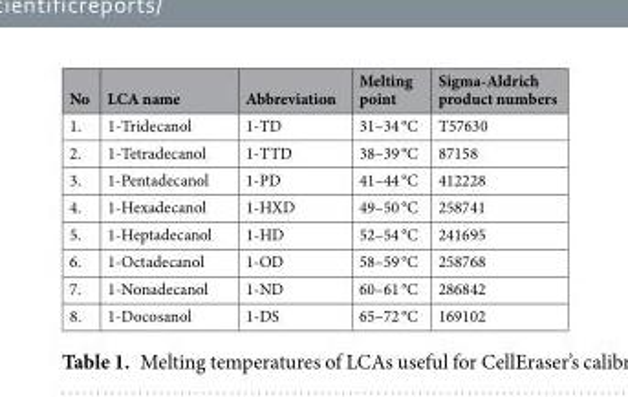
<table><thead><tr><td>No</td><td>LCA name</td><td>Abbreviation</td><td>Melting point</td><td>Sigma-Aldrich product numbers</td></tr></thead><tbody><tr><td>1.</td><td>1-Tridecanol</td><td>1-TD</td><td>31–34 °C</td><td>T57630</td></tr><tr><td>2.</td><td>1-Tetradecanol</td><td>1-TTD</td><td>38–39 °C</td><td>87158</td></tr><tr><td>3.</td><td>1-Pentadecanol</td><td>1-PD</td><td>41–44 °C</td><td>412228</td></tr><tr><td>4.</td><td>1-Hexadecanol</td><td>1-HXD</td><td>49–50 °C</td><td>258741</td></tr><tr><td>5.</td><td>1-Heptadecanol</td><td>1-HD</td><td>52–54 °C</td><td>241695</td></tr><tr><td>6.</td><td>1-Octadecanol</td><td>1-OD</td><td>58–59 °C</td><td>258768</td></tr><tr><td>7.</td><td>1-Nonadecanol</td><td>1-ND</td><td>60–61 °C</td><td>286842</td></tr><tr><td>8.</td><td>1-Docosanol</td><td>1-DS</td><td>65–72 °C</td><td>169102</td></tr></tbody></table>